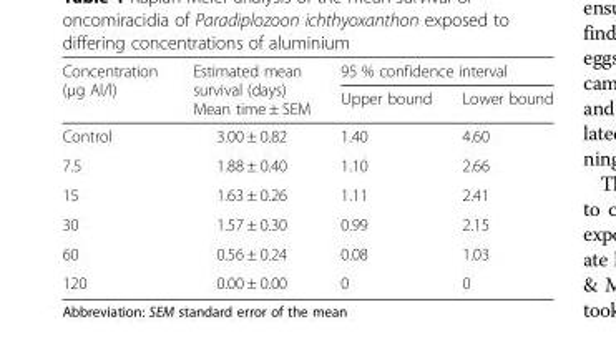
<table><thead><tr><td rowspan="2">Concentration (μg Al/l)</td><td rowspan="2">Estimated mean survival (days) Mean time ± SEM</td><td colspan="2">95 % confidence interval</td></tr><tr><td>Upper bound</td><td>Lower bound</td></tr></thead><tbody><tr><td>Control</td><td>3.00 ± 0.82</td><td>1.40</td><td>4.60</td></tr><tr><td>7.5</td><td>1.88 ± 0.40</td><td>1.10</td><td>2.66</td></tr><tr><td>15</td><td>1.63 ± 0.26</td><td>1.11</td><td>2.41</td></tr><tr><td>30</td><td>1.57 ± 0.30</td><td>0.99</td><td>2.15</td></tr><tr><td>60</td><td>0.56 ± 0.24</td><td>0.08</td><td>1.03</td></tr><tr><td>120</td><td>0.00 ± 0.00</td><td>0</td><td>0</td></tr></tbody></table>